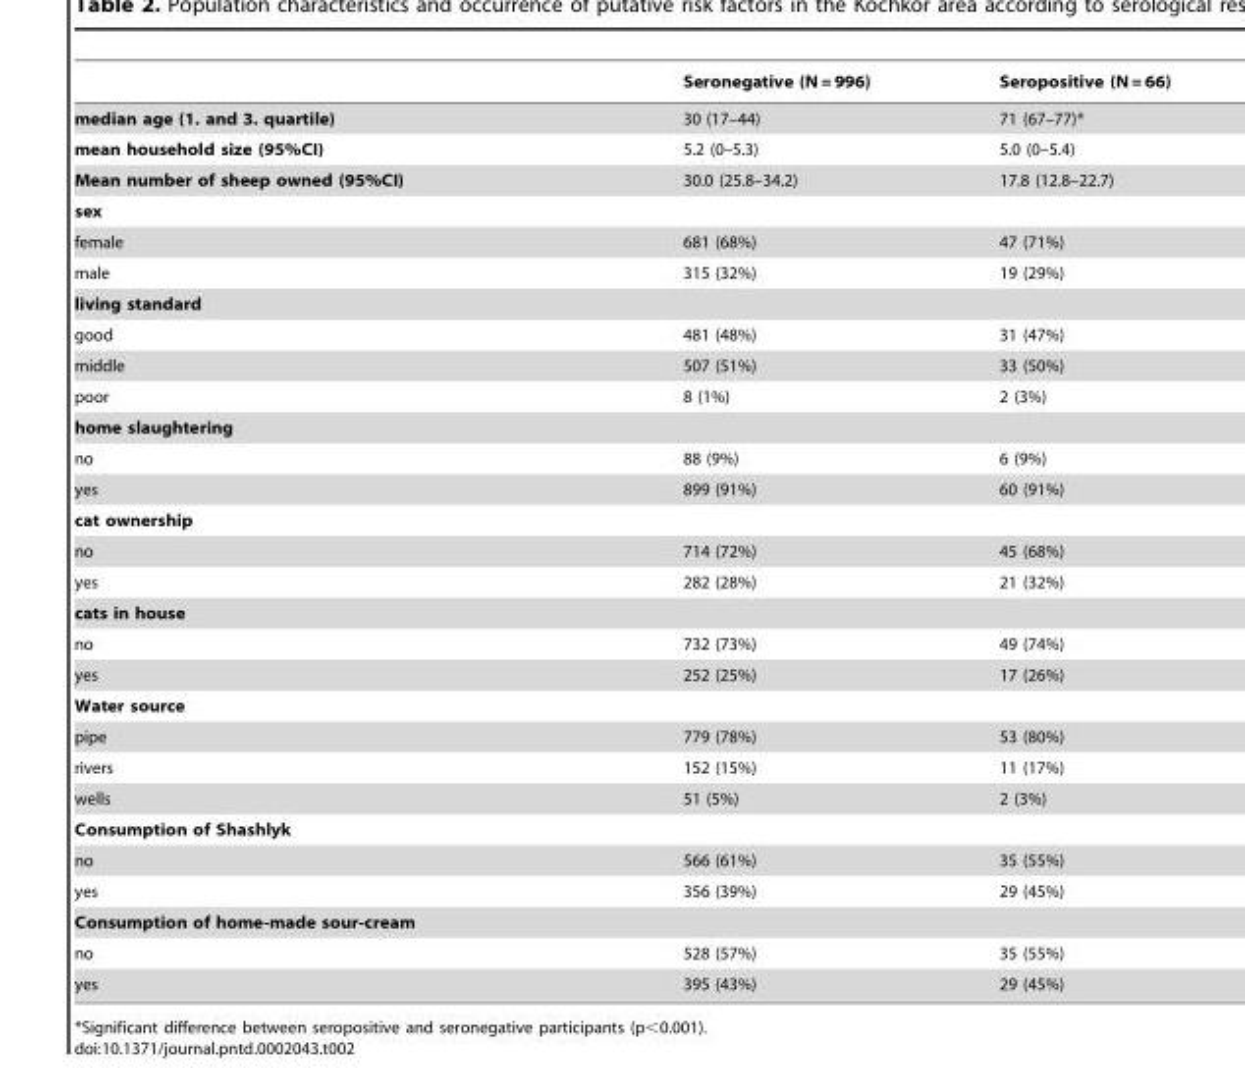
<table><thead><tr><td></td><td>Seronegative (N = 996)</td><td>Seropositive (N = 66)</td></tr></thead><tbody><tr><td>median age (1. and 3. quartile)</td><td>30 (17–44)</td><td>71 (67–77)*</td></tr><tr><td>mean household size (95%CI)</td><td>5.2 (0–5.3)</td><td>5.0 (0–5.4)</td></tr><tr><td>Mean number of sheep owned (95%CI)</td><td>30.0 (25.8–34.2)</td><td>17.8 (12.8–22.7)</td></tr><tr><td colspan="3">sex</td></tr><tr><td>female</td><td>681 (68%)</td><td>47 (71%)</td></tr><tr><td>male</td><td>315 (32%)</td><td>19 (29%)</td></tr><tr><td colspan="3">living standard</td></tr><tr><td>good</td><td>481 (48%)</td><td>31 (47%)</td></tr><tr><td>middle</td><td>507 (51%)</td><td>33 (50%)</td></tr><tr><td>poor</td><td>8 (1%)</td><td>2 (3%)</td></tr><tr><td colspan="3">home slaughtering</td></tr><tr><td>no</td><td>88 (9%)</td><td>6 (9%)</td></tr><tr><td>yes</td><td>899 (91%)</td><td>60 (91%)</td></tr><tr><td colspan="3">cat ownership</td></tr><tr><td>no</td><td>714 (72%)</td><td>45 (68%)</td></tr><tr><td>yes</td><td>282 (28%)</td><td>21 (32%)</td></tr><tr><td colspan="3">cats in house</td></tr><tr><td>no</td><td>732 (73%)</td><td>49 (74%)</td></tr><tr><td>yes</td><td>252 (25%)</td><td>17 (26%)</td></tr><tr><td colspan="3">Water source</td></tr><tr><td>pipe</td><td>779 (78%)</td><td>53 (80%)</td></tr><tr><td>rivers</td><td>152 (15%)</td><td>11 (17%)</td></tr><tr><td>wells</td><td>51 (5%)</td><td>2 (3%)</td></tr><tr><td colspan="3">Consumption of Shashlyk</td></tr><tr><td>no</td><td>566 (61%)</td><td>35 (55%)</td></tr><tr><td>yes</td><td>356 (39%)</td><td>29 (45%)</td></tr><tr><td colspan="3">Consumption of home-made sour-cream</td></tr><tr><td>no</td><td>528 (57%)</td><td>35 (55%)</td></tr><tr><td>yes</td><td>395 (43%)</td><td>29 (45%)</td></tr></tbody></table>